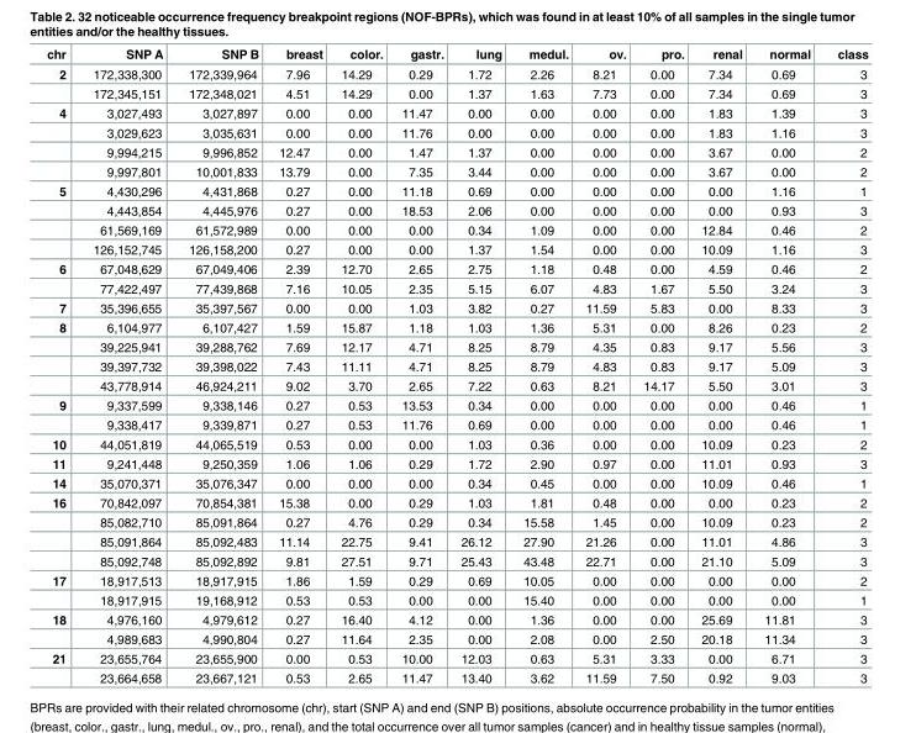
<table><thead><tr><td>chr</td><td>SNP A</td><td>SNP B</td><td>breast</td><td>color.</td><td>gastr.</td><td>lung</td><td>medul.</td><td>ov.</td><td>pro.</td><td>renal</td><td>normal</td><td>class</td></tr></thead><tbody><tr><td rowspan="2">2</td><td>172,338,300</td><td>172,339,964</td><td>7.96</td><td>14.29</td><td>0.29</td><td>1.72</td><td>2.26</td><td>8.21</td><td>0.00</td><td>7.34</td><td>0.69</td><td>3</td></tr><tr><td>172,345,151</td><td>172,348,021</td><td>4.51</td><td>14.29</td><td>0.00</td><td>1.37</td><td>1.63</td><td>7.73</td><td>0.00</td><td>7.34</td><td>0.69</td><td>3</td></tr><tr><td rowspan="4">4</td><td>3,027,493</td><td>3,027,897</td><td>0.00</td><td>0.00</td><td>11.47</td><td>0.00</td><td>0.00</td><td>0.00</td><td>0.00</td><td>1.83</td><td>1.39</td><td>3</td></tr><tr><td>3,029,623</td><td>3,035,631</td><td>0.00</td><td>0.00</td><td>11.76</td><td>0.00</td><td>0.00</td><td>0.00</td><td>0.00</td><td>1.83</td><td>1.16</td><td>3</td></tr><tr><td>9,994,215</td><td>9,996,852</td><td>12.47</td><td>0.00</td><td>1.47</td><td>1.37</td><td>0.00</td><td>0.00</td><td>0.00</td><td>3.67</td><td>0.00</td><td>2</td></tr><tr><td>9,997,801</td><td>10,001,833</td><td>13.79</td><td>0.00</td><td>7.35</td><td>3.44</td><td>0.00</td><td>0.00</td><td>0.00</td><td>3.67</td><td>0.00</td><td>2</td></tr><tr><td rowspan="4">5</td><td>4,430,296</td><td>4,431,868</td><td>0.27</td><td>0.00</td><td>11.18</td><td>0.69</td><td>0.00</td><td>0.00</td><td>0.00</td><td>0.00</td><td>1.16</td><td>1</td></tr><tr><td>4,443,854</td><td>4,445,976</td><td>0.27</td><td>0.00</td><td>18.53</td><td>2.06</td><td>0.00</td><td>0.00</td><td>0.00</td><td>0.00</td><td>0.93</td><td>3</td></tr><tr><td>61,569,169</td><td>61,572,989</td><td>0.00</td><td>0.00</td><td>0.00</td><td>0.34</td><td>1.09</td><td>0.00</td><td>0.00</td><td>12.84</td><td>0.46</td><td>2</td></tr><tr><td>126,152,745</td><td>126,158,200</td><td>0.27</td><td>0.00</td><td>0.00</td><td>1.37</td><td>1.54</td><td>0.00</td><td>0.00</td><td>10.09</td><td>1.16</td><td>3</td></tr><tr><td rowspan="2">6</td><td>67,048,629</td><td>67,049,406</td><td>2.39</td><td>12.70</td><td>2.65</td><td>2.75</td><td>1.18</td><td>0.48</td><td>0.00</td><td>4.59</td><td>0.46</td><td>2</td></tr><tr><td>77,422,497</td><td>77,439,868</td><td>7.16</td><td>10.05</td><td>2.35</td><td>5.15</td><td>6.07</td><td>4.83</td><td>1.67</td><td>5.50</td><td>3.24</td><td>3</td></tr><tr><td>7</td><td>35,396,655</td><td>35,397,567</td><td>0.00</td><td>0.00</td><td>1.03</td><td>3.82</td><td>0.27</td><td>11.59</td><td>5.83</td><td>0.00</td><td>8.33</td><td>3</td></tr><tr><td rowspan="4">8</td><td>6,104,977</td><td>6,107,427</td><td>1.59</td><td>15.87</td><td>1.18</td><td>1.03</td><td>1.36</td><td>5.31</td><td>0.00</td><td>8.26</td><td>0.23</td><td>2</td></tr><tr><td>39,225,941</td><td>39,288,762</td><td>7.69</td><td>12.17</td><td>4.71</td><td>8.25</td><td>8.79</td><td>4.35</td><td>0.83</td><td>9.17</td><td>5.56</td><td>3</td></tr><tr><td>39,397,732</td><td>39,398,022</td><td>7.43</td><td>11.11</td><td>4.71</td><td>8.25</td><td>8.79</td><td>4.83</td><td>0.83</td><td>9.17</td><td>5.09</td><td>3</td></tr><tr><td>43,778,914</td><td>46,924,211</td><td>9.02</td><td>3.70</td><td>2.65</td><td>7.22</td><td>0.63</td><td>8.21</td><td>14.17</td><td>5.50</td><td>3.01</td><td>3</td></tr><tr><td rowspan="2">9</td><td>9,337,599</td><td>9,338,146</td><td>0.27</td><td>0.53</td><td>13.53</td><td>0.34</td><td>0.00</td><td>0.00</td><td>0.00</td><td>0.00</td><td>0.46</td><td>1</td></tr><tr><td>9,338,417</td><td>9,339,871</td><td>0.27</td><td>0.53</td><td>11.76</td><td>0.69</td><td>0.00</td><td>0.00</td><td>0.00</td><td>0.00</td><td>0.46</td><td>1</td></tr><tr><td>10</td><td>44,051,819</td><td>44,065,519</td><td>0.53</td><td>0.00</td><td>0.00</td><td>1.03</td><td>0.36</td><td>0.00</td><td>0.00</td><td>10.09</td><td>0.23</td><td>2</td></tr><tr><td>11</td><td>9,241,448</td><td>9,250,359</td><td>1.06</td><td>1.06</td><td>0.29</td><td>1.72</td><td>2.90</td><td>0.97</td><td>0.00</td><td>11.01</td><td>0.93</td><td>3</td></tr><tr><td>14</td><td>35,070,371</td><td>35,076,347</td><td>0.00</td><td>0.00</td><td>0.00</td><td>0.34</td><td>0.45</td><td>0.00</td><td>0.00</td><td>10.09</td><td>0.46</td><td>1</td></tr><tr><td rowspan="4">16</td><td>70,842,097</td><td>70,854,381</td><td>15.38</td><td>0.00</td><td>0.29</td><td>1.03</td><td>1.81</td><td>0.48</td><td>0.00</td><td>0.00</td><td>0.23</td><td>2</td></tr><tr><td>85,082,710</td><td>85,091,864</td><td>0.27</td><td>4.76</td><td>0.29</td><td>0.34</td><td>15.58</td><td>1.45</td><td>0.00</td><td>10.09</td><td>0.23</td><td>2</td></tr><tr><td>85,091,864</td><td>85,092,483</td><td>11.14</td><td>22.75</td><td>9.41</td><td>26.12</td><td>27.90</td><td>21.26</td><td>0.00</td><td>11.01</td><td>4.86</td><td>3</td></tr><tr><td>85,092,748</td><td>85,092,892</td><td>9.81</td><td>27.51</td><td>9.71</td><td>25.43</td><td>43.48</td><td>22.71</td><td>0.00</td><td>21.10</td><td>5.09</td><td>3</td></tr><tr><td rowspan="2">17</td><td>18,917,513</td><td>18,917,915</td><td>1.86</td><td>1.59</td><td>0.29</td><td>0.69</td><td>10.05</td><td>0.00</td><td>0.00</td><td>0.00</td><td>0.00</td><td>2</td></tr><tr><td>18,917,915</td><td>19,168,912</td><td>0.53</td><td>0.53</td><td>0.00</td><td>0.00</td><td>15.40</td><td>0.00</td><td>0.00</td><td>0.00</td><td>0.00</td><td>1</td></tr><tr><td rowspan="2">18</td><td>4,976,160</td><td>4,979,612</td><td>0.27</td><td>16.40</td><td>4.12</td><td>0.00</td><td>1.36</td><td>0.00</td><td>0.00</td><td>25.69</td><td>11.81</td><td>3</td></tr><tr><td>4,989,683</td><td>4,990,804</td><td>0.27</td><td>11.64</td><td>2.35</td><td>0.00</td><td>2.08</td><td>0.00</td><td>2.50</td><td>20.18</td><td>11.34</td><td>3</td></tr><tr><td rowspan="2">21</td><td>23,655,764</td><td>23,655,900</td><td>0.00</td><td>0.53</td><td>10.00</td><td>12.03</td><td>0.63</td><td>5.31</td><td>3.33</td><td>0.00</td><td>6.71</td><td>3</td></tr><tr><td>23,664,658</td><td>23,667,121</td><td>0.53</td><td>2.65</td><td>11.47</td><td>13.40</td><td>3.62</td><td>11.59</td><td>7.50</td><td>0.92</td><td>9.03</td><td>3</td></tr></tbody></table>